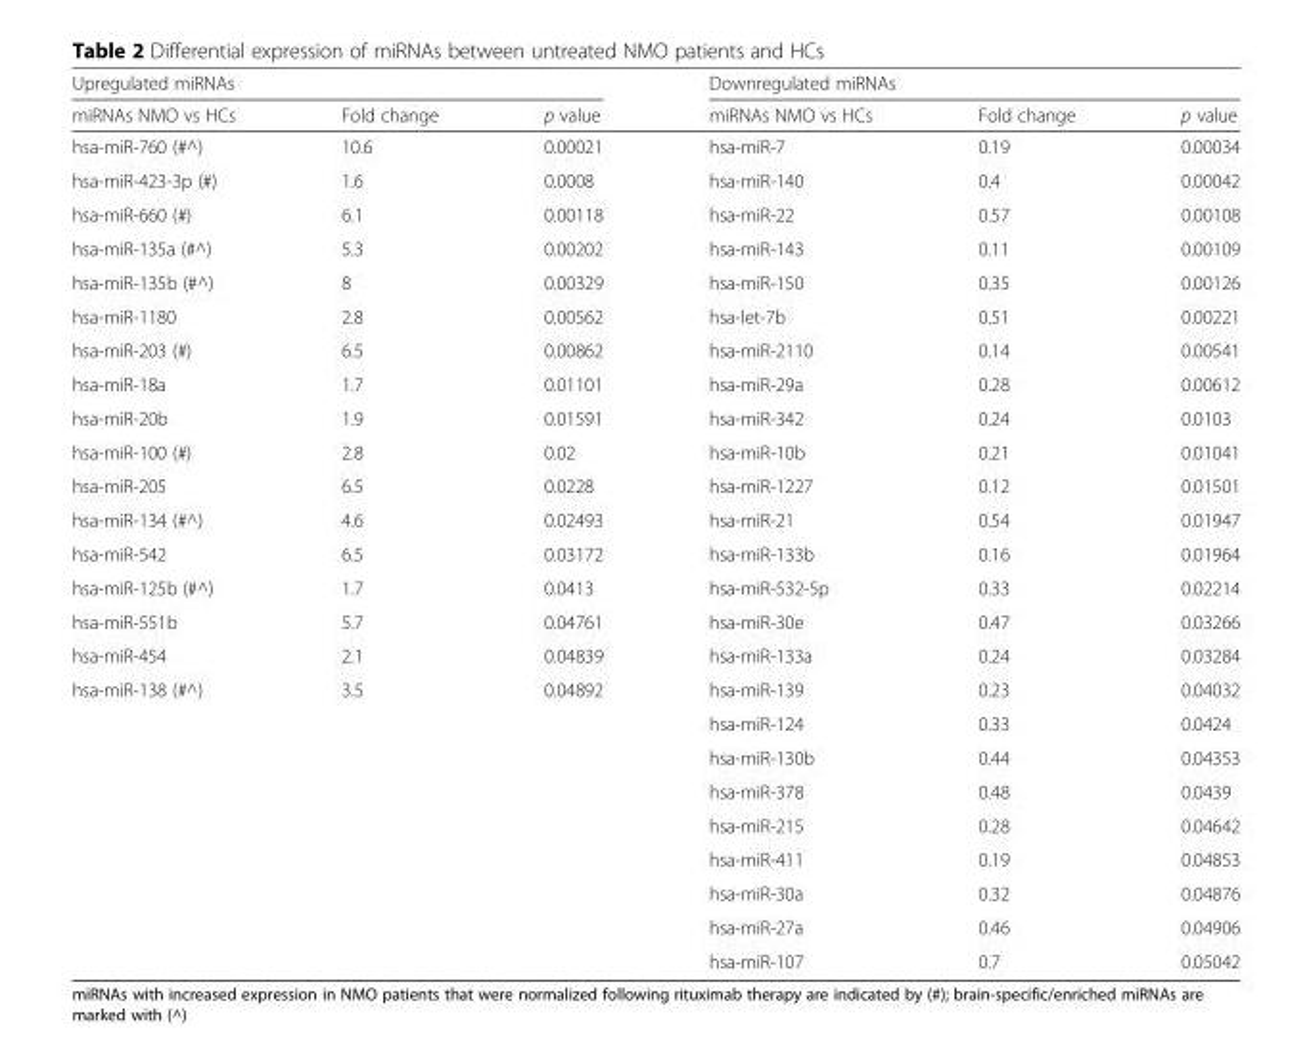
<table><thead><tr><td colspan="3">Upregulated miRNAs</td><td colspan="3">Downregulated miRNAs</td></tr><tr><td>miRNAs NMO vs HCs</td><td>Fold change</td><td>p value</td><td>miRNAs NMO vs HCs</td><td>Fold change</td><td>p value</td></tr></thead><tbody><tr><td>hsa-miR-760 (#^)</td><td>10.6</td><td>0.00021</td><td>hsa-miR-7</td><td>0.19</td><td>0.00034</td></tr><tr><td>hsa-miR-423-3p (#)</td><td>1.6</td><td>0.0008</td><td>hsa-miR-140</td><td>0.4</td><td>0.00042</td></tr><tr><td>hsa-miR-660 (#)</td><td>6.1</td><td>0.00118</td><td>hsa-miR-22</td><td>0.57</td><td>0.00108</td></tr><tr><td>hsa-miR-135a (#^)</td><td>5.3</td><td>0.00202</td><td>hsa-miR-143</td><td>0.11</td><td>0.00109</td></tr><tr><td>hsa-miR-135b (#^)</td><td>8</td><td>0.00329</td><td>hsa-miR-150</td><td>0.35</td><td>0.00126</td></tr><tr><td>hsa-miR-1180</td><td>2.8</td><td>0.00562</td><td>hsa-let-7b</td><td>0.51</td><td>0.00221</td></tr><tr><td>hsa-miR-203 (#)</td><td>6.5</td><td>0.00862</td><td>hsa-miR-2110</td><td>0.14</td><td>0.00541</td></tr><tr><td>hsa-miR-18a</td><td>1.7</td><td>0.01101</td><td>hsa-miR-29a</td><td>0.28</td><td>0.00612</td></tr><tr><td>hsa-miR-20b</td><td>1.9</td><td>0.01591</td><td>hsa-miR-342</td><td>0.24</td><td>0.0103</td></tr><tr><td>hsa-miR-100 (#)</td><td>2.8</td><td>0.02</td><td>hsa-miR-10b</td><td>0.21</td><td>0.01041</td></tr><tr><td>hsa-miR-205</td><td>6.5</td><td>0.0228</td><td>hsa-miR-1227</td><td>0.12</td><td>0.01501</td></tr><tr><td>hsa-miR-134 (#^)</td><td>4.6</td><td>0.02493</td><td>hsa-miR-21</td><td>0.54</td><td>0.01947</td></tr><tr><td>hsa-miR-542</td><td>6.5</td><td>0.03172</td><td>hsa-miR-133b</td><td>0.16</td><td>0.01964</td></tr><tr><td>hsa-miR-125b (#^)</td><td>1.7</td><td>0.0413</td><td>hsa-miR-532-5p</td><td>0.33</td><td>0.02214</td></tr><tr><td>hsa-miR-551b</td><td>5.7</td><td>0.04761</td><td>hsa-miR-30e</td><td>0.47</td><td>0.03266</td></tr><tr><td>hsa-miR-454</td><td>2.1</td><td>0.04839</td><td>hsa-miR-133a</td><td>0.24</td><td>0.03284</td></tr><tr><td rowspan="9">hsa-miR-138 (#^)</td><td>3.5</td><td>0.04892</td><td>hsa-miR-139</td><td>0.23</td><td>0.04032</td></tr><tr><td></td><td></td><td>hsa-miR-124</td><td>0.33</td><td>0.0424</td></tr><tr><td></td><td></td><td>hsa-miR-130b</td><td>0.44</td><td>0.04353</td></tr><tr><td></td><td></td><td>hsa-miR-378</td><td>0.48</td><td>0.0439</td></tr><tr><td></td><td></td><td>hsa-miR-215</td><td>0.28</td><td>0.04642</td></tr><tr><td></td><td></td><td>hsa-miR-411</td><td>0.19</td><td>0.04853</td></tr><tr><td></td><td></td><td>hsa-miR-30a</td><td>0.32</td><td>0.04876</td></tr><tr><td></td><td></td><td>hsa-miR-27a</td><td>0.46</td><td>0.04906</td></tr><tr><td></td><td></td><td>hsa-miR-107</td><td>0.7</td><td>0.05042</td></tr></tbody></table>